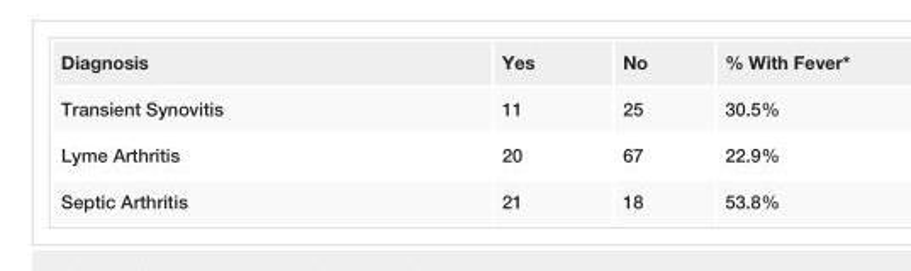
<table><tbody><tr><td>Diagnosis</td><td>Yes</td><td>No</td><td>% With Fever*</td></tr><tr><td>Transient Synovitis</td><td>11</td><td>25</td><td>30.5%</td></tr><tr><td>Lyme Arthritis</td><td>20</td><td>67</td><td>22.9%</td></tr><tr><td>Septic Arthritis</td><td>21</td><td>18</td><td>53.8%</td></tr></tbody></table>